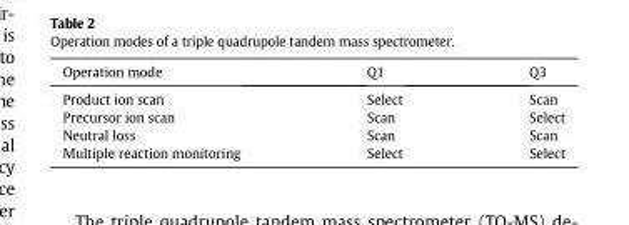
<table><thead><tr><td>Operation mode</td><td>Q1</td><td>Q3</td></tr></thead><tbody><tr><td>Product ion scan</td><td>Select</td><td>Scan</td></tr><tr><td>Precursor ion scan</td><td>Scan</td><td>Select</td></tr><tr><td>Neutral loss</td><td>Scan</td><td>Scan</td></tr><tr><td>Multiple reaction monitoring</td><td>Select</td><td>Select</td></tr></tbody></table>